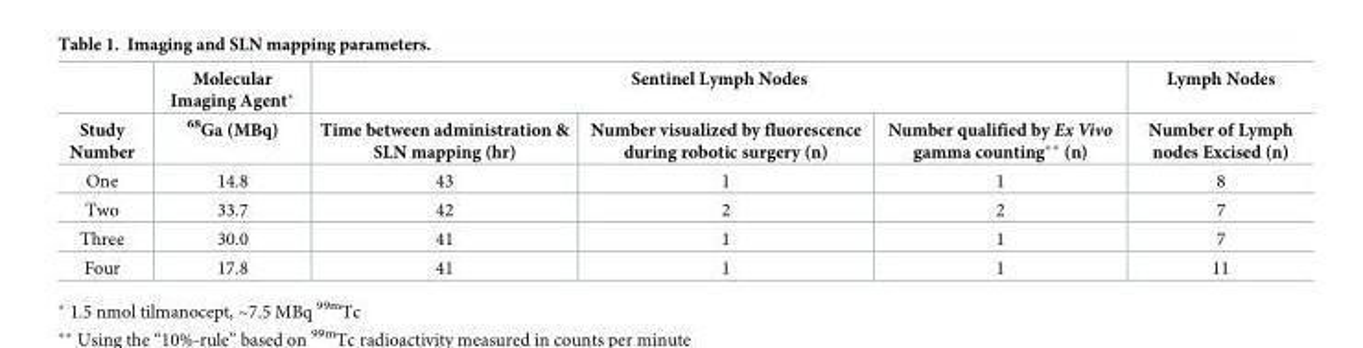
<table><thead><tr><td rowspan="2">Study Number</td><td rowspan="2">Molecular Imaging Agent* <sup>68</sup>Ga (MBq)</td><td colspan="3">Sentinel Lymph Nodes</td><td rowspan="2">Lymph Nodes Number of Lymph nodes Excised (n)</td></tr><tr><td>Time between administration &amp; SLN mapping (hr)</td><td>Number visualized by fluorescence during robotic surgery (n)</td><td>Number qualified by Ex Vivo gamma counting** (n)</td></tr></thead><tbody><tr><td>One</td><td>14.8</td><td>43</td><td>1</td><td>1</td><td>8</td></tr><tr><td>Two</td><td>33.7</td><td>42</td><td>2</td><td>2</td><td>7</td></tr><tr><td>Three</td><td>30.0</td><td>41</td><td>1</td><td>1</td><td>7</td></tr><tr><td>Four</td><td>17.8</td><td>41</td><td>1</td><td>1</td><td>11</td></tr></tbody></table>